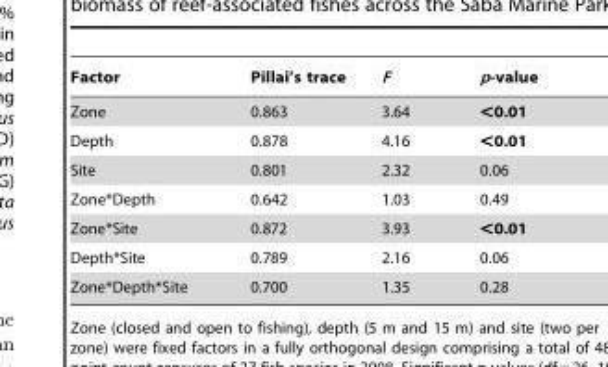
<table><thead><tr><td>Factor</td><td>Pillai’s trace</td><td>F</td><td>p-value</td></tr></thead><tbody><tr><td>Zone</td><td>0.863</td><td>3.64</td><td>&lt;0.01</td></tr><tr><td>Depth</td><td>0.878</td><td>4.16</td><td>&lt;0.01</td></tr><tr><td>Site</td><td>0.801</td><td>2.32</td><td>0.06</td></tr><tr><td>Zone*Depth</td><td>0.642</td><td>1.03</td><td>0.49</td></tr><tr><td>Zone*Site</td><td>0.872</td><td>3.93</td><td>&lt;0.01</td></tr><tr><td>Depth*Site</td><td>0.789</td><td>2.16</td><td>0.06</td></tr><tr><td>Zone*Depth*Site</td><td>0.700</td><td>1.35</td><td>0.28</td></tr></tbody></table>